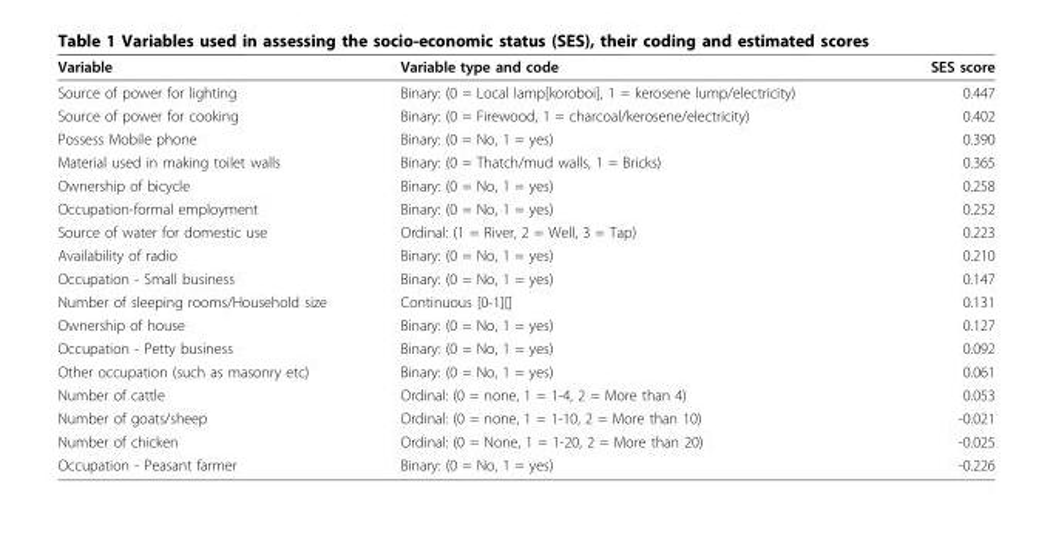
<table><thead><tr><td>Variable</td><td>Variable type and code</td><td>SES score</td></tr></thead><tbody><tr><td>Source of power for lighting</td><td>Binary: (0 = Local lamp[koroboi], 1 = kerosene lump/electricity)</td><td>0.447</td></tr><tr><td>Source of power for cooking</td><td>Binary: (0 = Firewood, 1 = charcoal/kerosene/electricity)</td><td>0.402</td></tr><tr><td>Possess Mobile phone</td><td>Binary: (0 = No, 1 = yes)</td><td>0.390</td></tr><tr><td>Material used in making toilet walls</td><td>Binary: (0 = Thatch/mud walls, 1 = Bricks)</td><td>0.365</td></tr><tr><td>Ownership of bicycle</td><td>Binary: (0 = No, 1 = yes)</td><td>0.258</td></tr><tr><td>Occupation-formal employment</td><td>Binary: (0 = No, 1 = yes)</td><td>0.252</td></tr><tr><td>Source of water for domestic use</td><td>Ordinal: (1 = River, 2 = Well, 3 = Tap)</td><td>0.223</td></tr><tr><td>Availability of radio</td><td>Binary: (0 = No, 1 = yes)</td><td>0.210</td></tr><tr><td>Occupation - Small business</td><td>Binary: (0 = No, 1 = yes)</td><td>0.147</td></tr><tr><td>Number of sleeping rooms/Household size</td><td>Continuous [0-1][]</td><td>0.131</td></tr><tr><td>Ownership of house</td><td>Binary: (0 = No, 1 = yes)</td><td>0.127</td></tr><tr><td>Occupation - Petty business</td><td>Binary: (0 = No, 1 = yes)</td><td>0.092</td></tr><tr><td>Other occupation (such as masonry etc)</td><td>Binary: (0 = No, 1 = yes)</td><td>0.061</td></tr><tr><td>Number of cattle</td><td>Ordinal: (0 = none, 1 = 1-4, 2 = More than 4)</td><td>0.053</td></tr><tr><td>Number of goats/sheep</td><td>Ordinal: (0 = none, 1 = 1-10, 2 = More than 10)</td><td>-0.021</td></tr><tr><td>Number of chicken</td><td>Ordinal: (0 = None, 1 = 1-20, 2 = More than 20)</td><td>-0.025</td></tr><tr><td>Occupation - Peasant farmer</td><td>Binary: (0 = No, 1 = yes)</td><td>-0.226</td></tr></tbody></table>